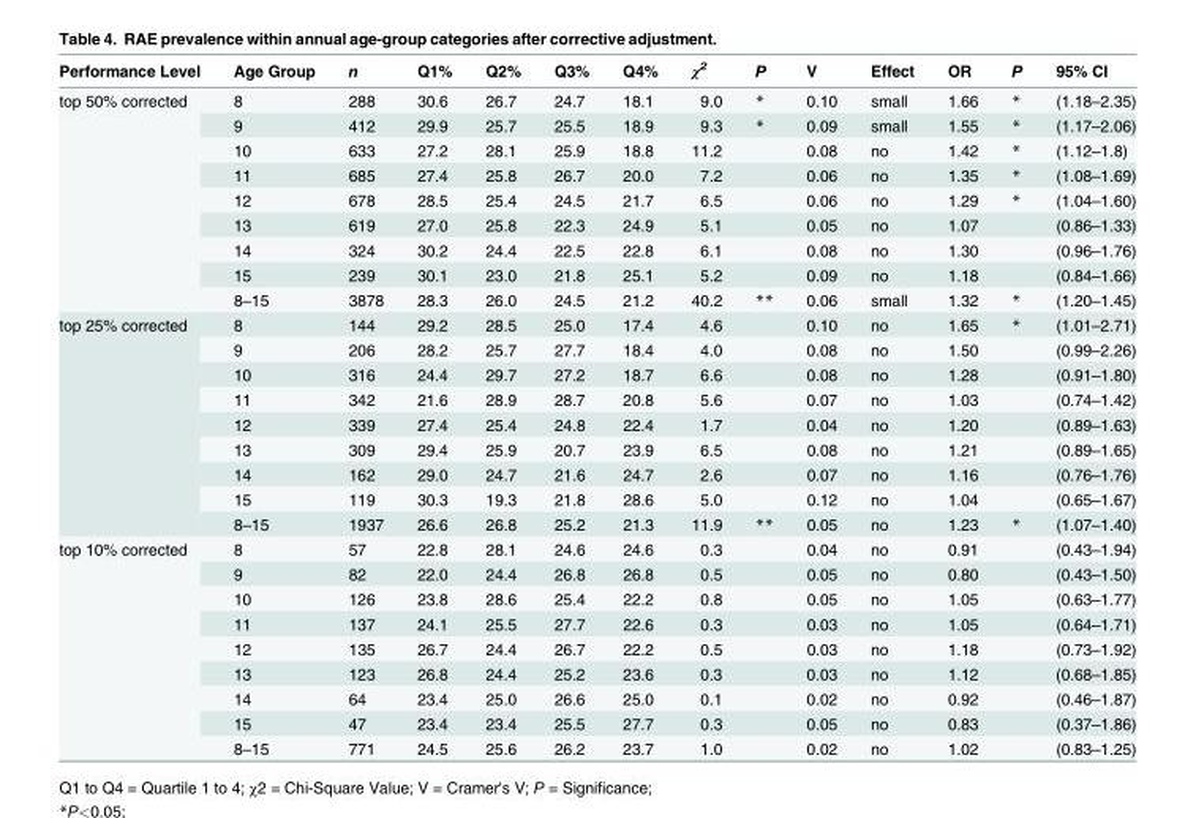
<table><thead><tr><td>Performance Level</td><td>Age Group</td><td>n</td><td>Q1%</td><td>Q2%</td><td>Q3%</td><td>Q4%</td><td>χ<sup>2</sup></td><td>P</td><td>V</td><td>Effect</td><td>OR</td><td>P</td><td>95% CI</td></tr></thead><tbody><tr><td rowspan="9">top 50% corrected</td><td>8</td><td>288</td><td>30.6</td><td>26.7</td><td>24.7</td><td>18.1</td><td>9.0</td><td>*</td><td>0.10</td><td>small</td><td>1.66</td><td>*</td><td>(1.18–2.35)</td></tr><tr><td>9</td><td>412</td><td>29.9</td><td>25.7</td><td>25.5</td><td>18.9</td><td>9.3</td><td>*</td><td>0.09</td><td>small</td><td>1.55</td><td>*</td><td>(1.17–2.06)</td></tr><tr><td>10</td><td>633</td><td>27.2</td><td>28.1</td><td>25.9</td><td>18.8</td><td>11.2</td><td></td><td>0.08</td><td>no</td><td>1.42</td><td>*</td><td>(1.12–1.8)</td></tr><tr><td>11</td><td>685</td><td>27.4</td><td>25.8</td><td>26.7</td><td>20.0</td><td>7.2</td><td></td><td>0.06</td><td>no</td><td>1.35</td><td>*</td><td>(1.08–1.69)</td></tr><tr><td>12</td><td>678</td><td>28.5</td><td>25.4</td><td>24.5</td><td>21.7</td><td>6.5</td><td></td><td>0.06</td><td>no</td><td>1.29</td><td>*</td><td>(1.04–1.60)</td></tr><tr><td>13</td><td>619</td><td>27.0</td><td>25.8</td><td>22.3</td><td>24.9</td><td>5.1</td><td></td><td>0.05</td><td>no</td><td>1.07</td><td></td><td>(0.86–1.33)</td></tr><tr><td>14</td><td>324</td><td>30.2</td><td>24.4</td><td>22.5</td><td>22.8</td><td>6.1</td><td></td><td>0.08</td><td>no</td><td>1.30</td><td></td><td>(0.96–1.76)</td></tr><tr><td>15</td><td>239</td><td>30.1</td><td>23.0</td><td>21.8</td><td>25.1</td><td>5.2</td><td></td><td>0.09</td><td>no</td><td>1.18</td><td></td><td>(0.84–1.66)</td></tr><tr><td>8–15</td><td>3878</td><td>28.3</td><td>26.0</td><td>24.5</td><td>21.2</td><td>40.2</td><td>**</td><td>0.06</td><td>small</td><td>1.32</td><td>*</td><td>(1.20–1.45)</td></tr><tr><td rowspan="9">top 25% corrected</td><td>8</td><td>144</td><td>29.2</td><td>28.5</td><td>25.0</td><td>17.4</td><td>4.6</td><td></td><td>0.10</td><td>no</td><td>1.65</td><td>*</td><td>(1.01–2.71)</td></tr><tr><td>9</td><td>206</td><td>28.2</td><td>25.7</td><td>27.7</td><td>18.4</td><td>4.0</td><td></td><td>0.08</td><td>no</td><td>1.50</td><td></td><td>(0.99–2.26)</td></tr><tr><td>10</td><td>316</td><td>24.4</td><td>29.7</td><td>27.2</td><td>18.7</td><td>6.6</td><td></td><td>0.08</td><td>no</td><td>1.28</td><td></td><td>(0.91–1.80)</td></tr><tr><td>11</td><td>342</td><td>21.6</td><td>28.9</td><td>28.7</td><td>20.8</td><td>5.6</td><td></td><td>0.07</td><td>no</td><td>1.03</td><td></td><td>(0.74–1.42)</td></tr><tr><td>12</td><td>339</td><td>27.4</td><td>25.4</td><td>24.8</td><td>22.4</td><td>1.7</td><td></td><td>0.04</td><td>no</td><td>1.20</td><td></td><td>(0.89–1.63)</td></tr><tr><td>13</td><td>309</td><td>29.4</td><td>25.9</td><td>20.7</td><td>23.9</td><td>6.5</td><td></td><td>0.08</td><td>no</td><td>1.21</td><td></td><td>(0.89–1.65)</td></tr><tr><td>14</td><td>162</td><td>29.0</td><td>24.7</td><td>21.6</td><td>24.7</td><td>2.6</td><td></td><td>0.07</td><td>no</td><td>1.16</td><td></td><td>(0.76–1.76)</td></tr><tr><td>15</td><td>119</td><td>30.3</td><td>19.3</td><td>21.8</td><td>28.6</td><td>5.0</td><td></td><td>0.12</td><td>no</td><td>1.04</td><td></td><td>(0.65–1.67)</td></tr><tr><td>8–15</td><td>1937</td><td>26.6</td><td>26.8</td><td>25.2</td><td>21.3</td><td>11.9</td><td>**</td><td>0.05</td><td>no</td><td>1.23</td><td>*</td><td>(1.07–1.40)</td></tr><tr><td rowspan="9">top 10% corrected</td><td>8</td><td>57</td><td>22.8</td><td>28.1</td><td>24.6</td><td>24.6</td><td>0.3</td><td></td><td>0.04</td><td>no</td><td>0.91</td><td></td><td>(0.43–1.94)</td></tr><tr><td>9</td><td>82</td><td>22.0</td><td>24.4</td><td>26.8</td><td>26.8</td><td>0.5</td><td></td><td>0.05</td><td>no</td><td>0.80</td><td></td><td>(0.43–1.50)</td></tr><tr><td>10</td><td>126</td><td>23.8</td><td>28.6</td><td>25.4</td><td>22.2</td><td>0.8</td><td></td><td>0.05</td><td>no</td><td>1.05</td><td></td><td>(0.63–1.77)</td></tr><tr><td>11</td><td>137</td><td>24.1</td><td>25.5</td><td>27.7</td><td>22.6</td><td>0.3</td><td></td><td>0.03</td><td>no</td><td>1.05</td><td></td><td>(0.64–1.71)</td></tr><tr><td>12</td><td>135</td><td>26.7</td><td>24.4</td><td>26.7</td><td>22.2</td><td>0.5</td><td></td><td>0.03</td><td>no</td><td>1.18</td><td></td><td>(0.73–1.92)</td></tr><tr><td>13</td><td>123</td><td>26.8</td><td>24.4</td><td>25.2</td><td>23.6</td><td>0.3</td><td></td><td>0.03</td><td>no</td><td>1.12</td><td></td><td>(0.68–1.85)</td></tr><tr><td>14</td><td>64</td><td>23.4</td><td>25.0</td><td>26.6</td><td>25.0</td><td>0.1</td><td></td><td>0.02</td><td>no</td><td>0.92</td><td></td><td>(0.46–1.87)</td></tr><tr><td>15</td><td>47</td><td>23.4</td><td>23.4</td><td>25.5</td><td>27.7</td><td>0.3</td><td></td><td>0.05</td><td>no</td><td>0.83</td><td></td><td>(0.37–1.86)</td></tr><tr><td>8–15</td><td>771</td><td>24.5</td><td>25.6</td><td>26.2</td><td>23.7</td><td>1.0</td><td></td><td>0.02</td><td>no</td><td>1.02</td><td></td><td>(0.83–1.25)</td></tr></tbody></table>